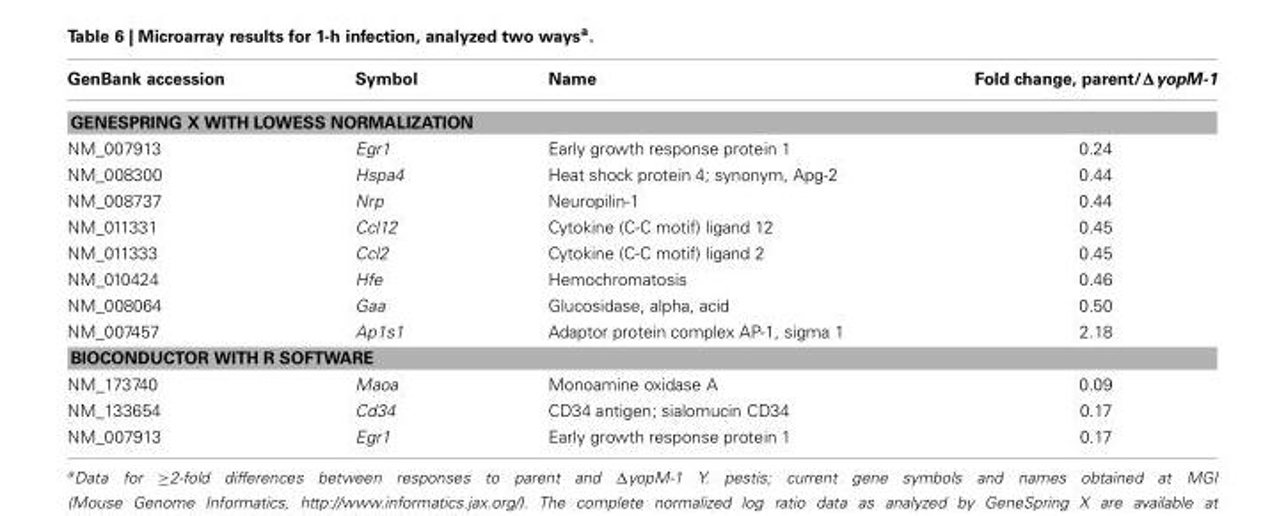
<table><thead><tr><td>GenBank accession</td><td>Symbol</td><td>Name</td><td>Fold change, parent/ΔyopM-1</td></tr></thead><tbody><tr><td colspan="4">GENESPRING X WITH LOWESS NORMALIZATION</td></tr><tr><td>NM_007913</td><td>Egr1</td><td>Early growth response protein 1</td><td>0.24</td></tr><tr><td>NM_008300</td><td>Hspa4</td><td>Heat shock protein 4; synonym, Apg-2</td><td>0.44</td></tr><tr><td>NM_008737</td><td>Nrp</td><td>Neuropilin-1</td><td>0.44</td></tr><tr><td>NM_011331</td><td>Ccl12</td><td>Cytokine (C-C motif) ligand 12</td><td>0.45</td></tr><tr><td>NM_011333</td><td>Ccl2</td><td>Cytokine (C-C motif) ligand 2</td><td>0.45</td></tr><tr><td>NM_010424</td><td>Hfe</td><td>Hemochromatosis</td><td>0.46</td></tr><tr><td>NM_008064</td><td>Gaa</td><td>Glucosidase, alpha, acid</td><td>0.50</td></tr><tr><td>NM_007457</td><td>Ap1s1</td><td>Adaptor protein complex AP-1, sigma 1</td><td>2.18</td></tr><tr><td colspan="4">BIOCONDUCTOR WITH R SOFTWARE</td></tr><tr><td>NM_173740</td><td>Maoa</td><td>Monoamine oxidase A</td><td>0.09</td></tr><tr><td>NM_133654</td><td>Cd34</td><td>CD34 antigen; sialomucin CD34</td><td>0.17</td></tr><tr><td>NM_007913</td><td>Egr1</td><td>Early growth response protein 1</td><td>0.17</td></tr></tbody></table>